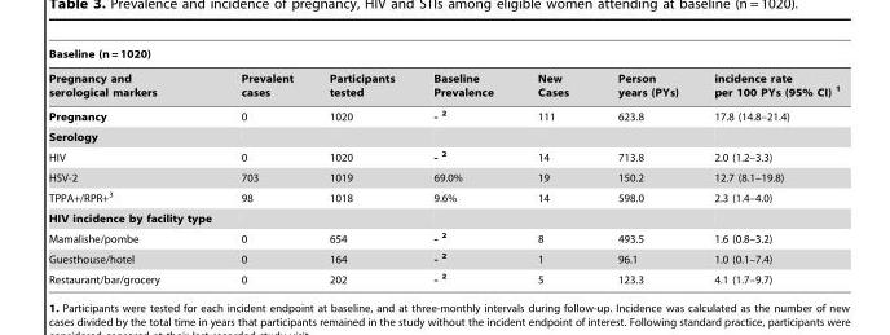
<table><thead><tr><td colspan="7">Baseline (n = 1020)</td></tr><tr><td>Pregnancy and serological markers</td><td>Prevalent cases</td><td>Participants tested</td><td>Baseline Prevalence</td><td>New Cases</td><td>Person years (PYs)</td><td>incidence rate per 100 PYs (95% CI) 1</td></tr></thead><tbody><tr><td>Pregnancy</td><td>0</td><td>1020</td><td>- 2</td><td>111</td><td>623.8</td><td>17.8 (14.8–21.4)</td></tr><tr><td colspan="7">Serology</td></tr><tr><td>HIV</td><td>0</td><td>1020</td><td>- 2</td><td>14</td><td>713.8</td><td>2.0 (1.2–3.3)</td></tr><tr><td>HSV-2</td><td>703</td><td>1019</td><td>69.0%</td><td>19</td><td>150.2</td><td>12.7 (8.1–19.8)</td></tr><tr><td>TPPA+/RPR+<sup>3</sup></td><td>98</td><td>1018</td><td>9.6%</td><td>14</td><td>598.0</td><td>2.3 (1.4–4.0)</td></tr><tr><td colspan="7">HIV incidence by facility type</td></tr><tr><td>Mamalishe/pombe</td><td>0</td><td>654</td><td>- 2</td><td>8</td><td>493.5</td><td>1.6 (0.8–3.2)</td></tr><tr><td>Guesthouse/hotel</td><td>0</td><td>164</td><td>- 2</td><td>1</td><td>96.1</td><td>1.0 (0.1–7.4)</td></tr><tr><td>Restaurant/bar/grocery</td><td>0</td><td>202</td><td>- 2</td><td>5</td><td>123.3</td><td>4.1 (1.7–9.7)</td></tr></tbody></table>